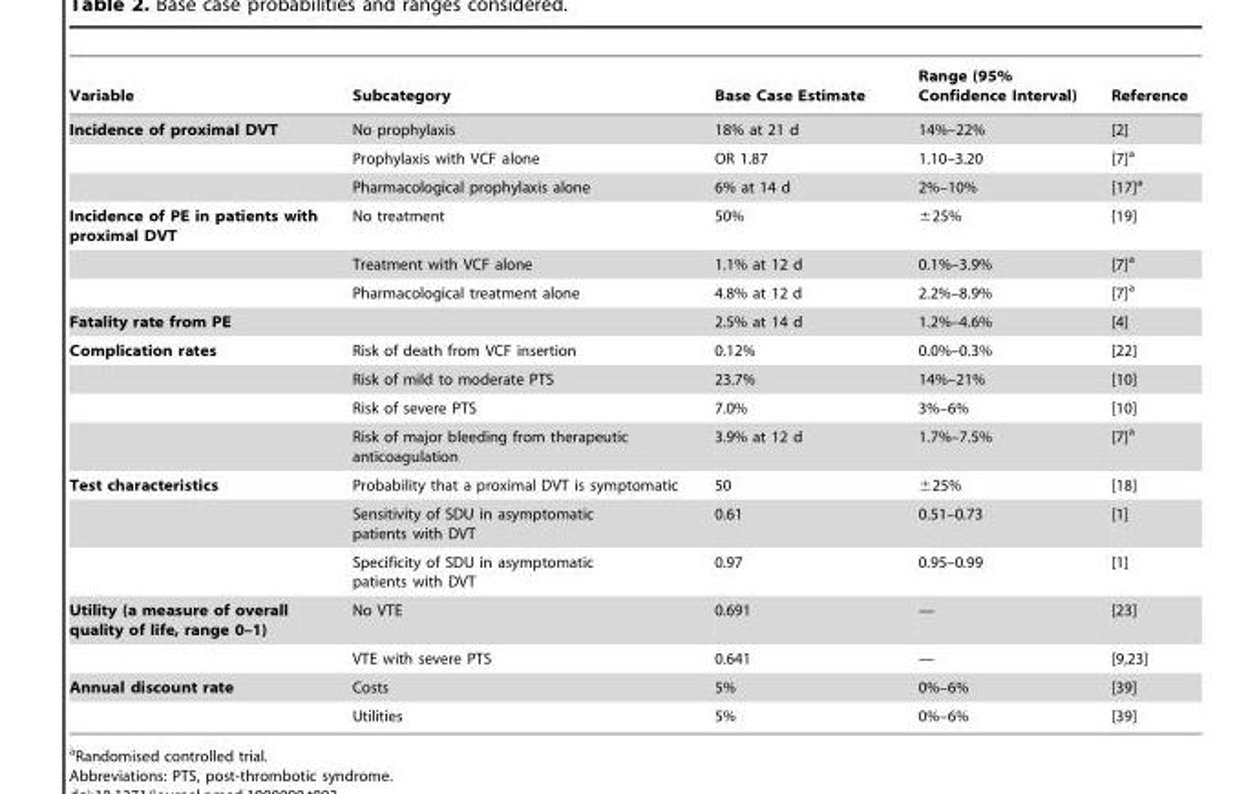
<table><thead><tr><td>Variable</td><td>Subcategory</td><td>Base Case Estimate</td><td>Range (95% Confidence Interval)</td><td>Reference</td></tr></thead><tbody><tr><td rowspan="3">Incidence of proximal DVT</td><td>No prophylaxis</td><td>18% at 21 d</td><td>14%–22%</td><td>[2]</td></tr><tr><td>Prophylaxis with VCF alone</td><td>OR 1.87</td><td>1.10–3.20</td><td>[7]a</td></tr><tr><td>Pharmacological prophylaxis alone</td><td>6% at 14 d</td><td>2%–10%</td><td>[17]a</td></tr><tr><td rowspan="3">Incidence of PE in patients with proximal DVT</td><td>No treatment</td><td>50%</td><td>±25%</td><td>[19]</td></tr><tr><td>Treatment with VCF alone</td><td>1.1% at 12 d</td><td>0.1%–3.9%</td><td>[7]a</td></tr><tr><td>Pharmacological treatment alone</td><td>4.8% at 12 d</td><td>2.2%–8.9%</td><td>[7]a</td></tr><tr><td>Fatality rate from PE</td><td></td><td>2.5% at 14 d</td><td>1.2%–4.6%</td><td>[4]</td></tr><tr><td rowspan="4">Complication rates</td><td>Risk of death from VCF insertion</td><td>0.12%</td><td>0.0%–0.3%</td><td>[22]</td></tr><tr><td>Risk of mild to moderate PTS</td><td>23.7%</td><td>14%–21%</td><td>[10]</td></tr><tr><td>Risk of severe PTS</td><td>7.0%</td><td>3%–6%</td><td>[10]</td></tr><tr><td>Risk of major bleeding from therapeutic anticoagulation</td><td>3.9% at 12 d</td><td>1.7%–7.5%</td><td>[7]a</td></tr><tr><td rowspan="3">Test characteristics</td><td>Probability that a proximal DVT is symptomatic</td><td>50</td><td>±25%</td><td>[18]</td></tr><tr><td>Sensitivity of SDU in asymptomatic patients with DVT</td><td>0.61</td><td>0.51–0.73</td><td>[1]</td></tr><tr><td>Specificity of SDU in asymptomatic patients with DVT</td><td>0.97</td><td>0.95–0.99</td><td>[1]</td></tr><tr><td rowspan="2">Utility (a measure of overall quality of life, range 0–1)</td><td>No VTE</td><td>0.691</td><td>—</td><td>[23]</td></tr><tr><td>VTE with severe PTS</td><td>0.641</td><td>—</td><td>[9,23]</td></tr><tr><td rowspan="2">Annual discount rate</td><td>Costs</td><td>5%</td><td>0%–6%</td><td>[39]</td></tr><tr><td>Utilities</td><td>5%</td><td>0%–6%</td><td>[39]</td></tr></tbody></table>